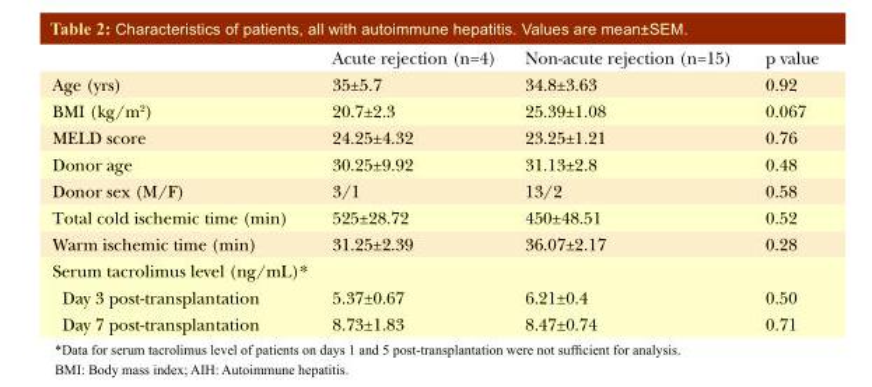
<table><thead><tr><td></td><td>Acute rejection (n=4)</td><td>Non-acute rejection (n=15)</td><td>p value</td></tr></thead><tbody><tr><td>Age (yrs)</td><td>35±5.7</td><td>34.8±3.63</td><td>0.92</td></tr><tr><td>BMI (kg/m<sup>2</sup>)</td><td>20.7±2.3</td><td>25.39±1.08</td><td>0.067</td></tr><tr><td>MELD score</td><td>24.25±4.32</td><td>23.25±1.21</td><td>0.76</td></tr><tr><td>Donor age</td><td>30.25±9.92</td><td>31.13±2.8</td><td>0.48</td></tr><tr><td>Donor sex (M/F)</td><td>3/1</td><td>13/2</td><td>0.58</td></tr><tr><td>Total cold ischemic time (min)</td><td>525±28.72</td><td>450±48.51</td><td>0.52</td></tr><tr><td>Warm ischemic time (min)</td><td>31.25±2.39</td><td>36.07±2.17</td><td>0.28</td></tr><tr><td colspan="4">Serum tacrolimus level (ng/mL)*</td></tr><tr><td>Day 3 post-transplantation</td><td>5.37±0.67</td><td>6.21±0.4</td><td>0.50</td></tr><tr><td>Day 7 post-transplantation</td><td>8.73±1.83</td><td>8.47±0.74</td><td>0.71</td></tr></tbody></table>